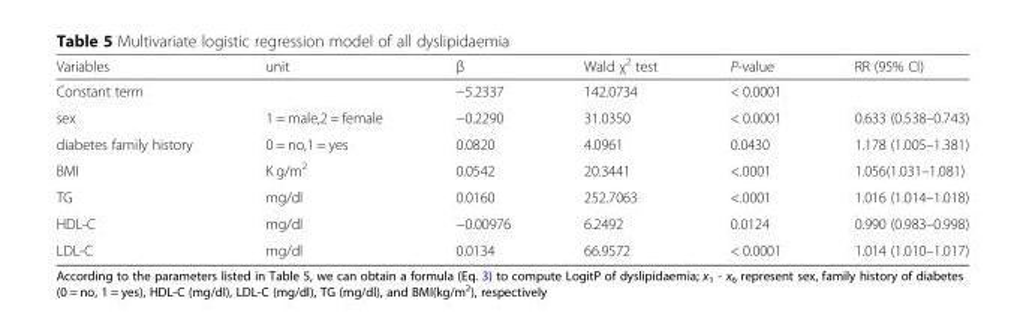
<table><thead><tr><td>Variables</td><td>unit</td><td>β</td><td>Wald χ<sup>2</sup> test</td><td>P-value</td><td>RR (95% CI)</td></tr></thead><tbody><tr><td>Constant term</td><td></td><td>−5.2337</td><td>142.0734</td><td>&lt; 0.0001</td><td></td></tr><tr><td>sex</td><td>1 = male,2 = female</td><td>−0.2290</td><td>31.0350</td><td>&lt; 0.0001</td><td>0.633 (0.538–0.743)</td></tr><tr><td>diabetes family history</td><td>0 = no,1 = yes</td><td>0.0820</td><td>4.0961</td><td>0.0430</td><td>1.178 (1.005–1.381)</td></tr><tr><td>BMI</td><td>K g/m<sup>2</sup></td><td>0.0542</td><td>20.3441</td><td>&lt;.0001</td><td>1.056(1.031–1.081)</td></tr><tr><td>TG</td><td>mg/dl</td><td>0.0160</td><td>252.7063</td><td>&lt;.0001</td><td>1.016 (1.014–1.018)</td></tr><tr><td>HDL-C</td><td>mg/dl</td><td>−0.00976</td><td>6.2492</td><td>0.0124</td><td>0.990 (0.983–0.998)</td></tr><tr><td>LDL-C</td><td>mg/dl</td><td>0.0134</td><td>66.9572</td><td>&lt; 0.0001</td><td>1.014 (1.010–1.017)</td></tr></tbody></table>